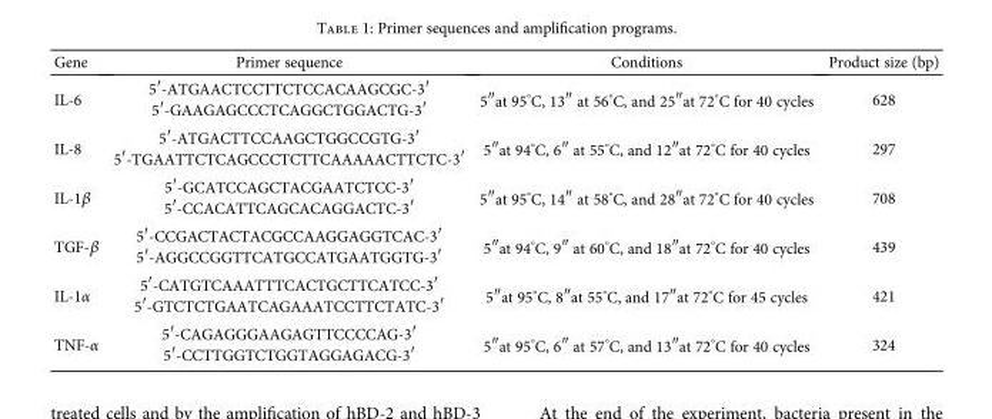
<table><thead><tr><td>Gene</td><td>Primer sequence</td><td>Conditions</td><td>Product size (bp)</td></tr></thead><tbody><tr><td>IL-6</td><td>5′-ATGAACTCCTTCTCCACAAGCGC-3′ 5′-GAAGAGCCCTCAGGCTGGACTG-3′</td><td>5<sup>″</sup>at 95°C, 13<sup>″</sup> at 56°C, and 25<sup>″</sup>at 72°C for 40 cycles</td><td>628</td></tr><tr><td>IL-8</td><td>5′-ATGACTTCCAAGCTGGCCGTG-3′ 5′-TGAATTCTCAGCCCTCTTCAAAAACTTCTC-3′</td><td>5<sup>″</sup>at 94°C, 6<sup>″</sup> at 55°C, and 12<sup>″</sup>at 72°C for 40 cycles</td><td>297</td></tr><tr><td>IL-1β</td><td>5′-GCATCCAGCTACGAATCTCC-3′ 5′-CCACATTCAGCACAGGACTC-3′</td><td>5<sup>″</sup>at 95°C, 14<sup>″</sup> at 58°C, and 28<sup>″</sup>at 72°C for 40 cycles</td><td>708</td></tr><tr><td>TGF-β</td><td>5′-CCGACTACTACGCCAAGGAGGTCAC-3′ 5′-AGGCCGGTTCATGCCATGAATGGTG-3′</td><td>5<sup>″</sup>at 94°C, 9<sup>″</sup> at 60°C, and 18<sup>″</sup>at 72°C for 40 cycles</td><td>439</td></tr><tr><td>IL-1α</td><td>5′-CATGTCAAATTTCACTGCTTCATCC-3′ 5′-GTCTCTGAATCAGAAATCCTTCTATC-3′</td><td>5<sup>″</sup>at 95°C, 8<sup>″</sup>at 55°C, and 17<sup>″</sup>at 72°C for 45 cycles</td><td>421</td></tr><tr><td>TNF-α</td><td>5′-CAGAGGGAAGAGTTCCCCAG-3′ 5′-CCTTGGTCTGGTAGGAGACG-3′</td><td>5<sup>″</sup>at 95°C, 6<sup>″</sup> at 57°C, and 13<sup>″</sup>at 72°C for 40 cycles</td><td>324</td></tr></tbody></table>